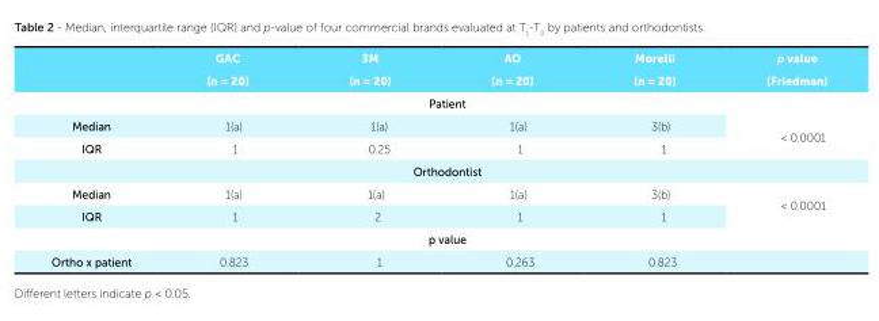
<table><thead><tr><td></td><td>GAC</td><td>3M</td><td>AO</td><td>Morelli</td><td>p value</td></tr></thead><tbody><tr><td></td><td>(n = 20)</td><td>(n = 20)</td><td>(n = 20)</td><td rowspan="2">(n = 20)</td><td rowspan="2">(Friedman)</td></tr><tr><td colspan="4">Patient</td></tr><tr><td>Median</td><td>1(a)</td><td>1(a)</td><td>1(a)</td><td>3(b)</td><td rowspan="3">&lt; 0.0001</td></tr><tr><td>IQR</td><td>1</td><td>0.25</td><td>1</td><td rowspan="2">1</td></tr><tr><td colspan="4">Orthodontist</td></tr><tr><td>Median</td><td>1(a)</td><td>1(a)</td><td>1(a)</td><td>3(b)</td><td rowspan="3">&lt; 0.0001</td></tr><tr><td>IQR</td><td>1</td><td>2</td><td>1</td><td rowspan="2">1</td></tr><tr><td colspan="4">p value</td></tr><tr><td>Ortho x patient</td><td>0.823</td><td>1</td><td>0.263</td><td>0.823</td><td></td></tr></tbody></table>